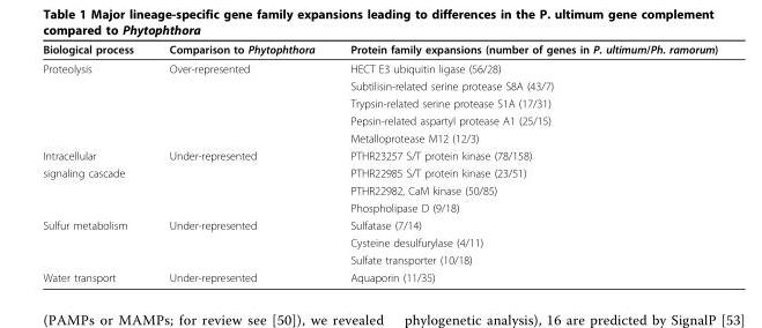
<table><thead><tr><td>Biological process</td><td>Comparison to Phytophthora</td><td>Protein family expansions (number of genes in P. ultimum/Ph. ramorum)</td></tr></thead><tbody><tr><td rowspan="5">Proteolysis</td><td>Over-represented</td><td>HECT E3 ubiquitin ligase (56/28)</td></tr><tr><td></td><td>Subtilisin-related serine protease S8A (43/7)</td></tr><tr><td></td><td>Trypsin-related serine protease S1A (17/31)</td></tr><tr><td></td><td>Pepsin-related aspartyl protease A1 (25/15)</td></tr><tr><td></td><td>Metalloprotease M12 (12/3)</td></tr><tr><td>Intracellular</td><td>Under-represented</td><td>PTHR23257 S/T protein kinase (78/158)</td></tr><tr><td rowspan="3">signaling cascade</td><td></td><td>PTHR22985 S/T protein kinase (23/51)</td></tr><tr><td></td><td>PTHR22982, CaM kinase (50/85)</td></tr><tr><td></td><td>Phospholipase D (9/18)</td></tr><tr><td rowspan="3">Sulfur metabolism</td><td>Under-represented</td><td>Sulfatase (7/14)</td></tr><tr><td></td><td>Cysteine desulfurylase (4/11)</td></tr><tr><td></td><td>Sulfate transporter (10/18)</td></tr><tr><td>Water transport</td><td>Under-represented</td><td>Aquaporin (11/35)</td></tr></tbody></table>